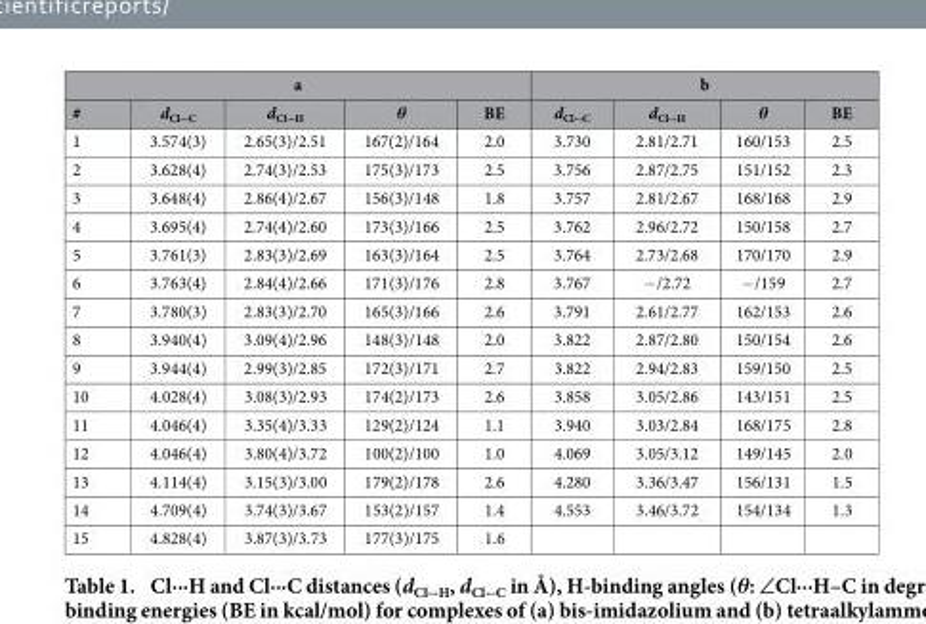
<table><thead><tr><td colspan="5">a</td><td colspan="4">b</td></tr><tr><td>#</td><td>d<sub>Cl···C</sub></td><td>d<sub>Cl···H</sub></td><td>θ</td><td>BE</td><td>d<sub>Cl···C</sub></td><td>d<sub>Cl···H</sub></td><td>θ</td><td>BE</td></tr></thead><tbody><tr><td>1</td><td>3.574(3)</td><td>2.65(3)/2.51</td><td>167(2)/164</td><td>2.0</td><td>3.730</td><td>2.81/2.71</td><td>160/153</td><td>2.5</td></tr><tr><td>2</td><td>3.628(4)</td><td>2.74(3)/2.53</td><td>175(3)/173</td><td>2.5</td><td>3.756</td><td>2.87/2.75</td><td>151/152</td><td>2.3</td></tr><tr><td>3</td><td>3.648(4)</td><td>2.86(4)/2.67</td><td>156(3)/148</td><td>1.8</td><td>3.757</td><td>2.81/2.67</td><td>168/168</td><td>2.9</td></tr><tr><td>4</td><td>3.695(4)</td><td>2.74(4)/2.60</td><td>173(3)/166</td><td>2.5</td><td>3.762</td><td>2.96/2.72</td><td>150/158</td><td>2.7</td></tr><tr><td>5</td><td>3.761(3)</td><td>2.83(3)/2.69</td><td>163(3)/164</td><td>2.5</td><td>3.764</td><td>2.73/2.68</td><td>170/170</td><td>2.9</td></tr><tr><td>6</td><td>3.763(4)</td><td>2.84(4)/2.66</td><td>171(3)/176</td><td>2.8</td><td>3.767</td><td>− /2.72</td><td>− /159</td><td>2.7</td></tr><tr><td>7</td><td>3.780(3)</td><td>2.83(3)/2.70</td><td>165(3)/166</td><td>2.6</td><td>3.791</td><td>2.61/2.77</td><td>162/153</td><td>2.6</td></tr><tr><td>8</td><td>3.940(4)</td><td>3.09(4)/2.96</td><td>148(3)/148</td><td>2.0</td><td>3.822</td><td>2.87/2.80</td><td>150/154</td><td>2.6</td></tr><tr><td>9</td><td>3.944(4)</td><td>2.99(3)/2.85</td><td>172(3)/171</td><td>2.7</td><td>3.822</td><td>2.94/2.83</td><td>159/150</td><td>2.5</td></tr><tr><td>10</td><td>4.028(4)</td><td>3.08(3)/2.93</td><td>174(2)/173</td><td>2.6</td><td>3.858</td><td>3.05/2.86</td><td>143/151</td><td>2.5</td></tr><tr><td>11</td><td>4.046(4)</td><td>3.35(4)/3.33</td><td>129(2)/124</td><td>1.1</td><td>3.940</td><td>3.03/2.84</td><td>168/175</td><td>2.8</td></tr><tr><td>12</td><td>4.046(4)</td><td>3.80(4)/3.72</td><td>100(2)/100</td><td>1.0</td><td>4.069</td><td>3.05/3.12</td><td>149/145</td><td>2.0</td></tr><tr><td>13</td><td>4.114(4)</td><td>3.15(3)/3.00</td><td>179(2)/178</td><td>2.6</td><td>4.280</td><td>3.36/3.47</td><td>156/131</td><td>1.5</td></tr><tr><td>14</td><td>4.709(4)</td><td>3.74(3)/3.67</td><td>153(2)/157</td><td>1.4</td><td>4.553</td><td>3.46/3.72</td><td>154/134</td><td>1.3</td></tr><tr><td>15</td><td>4.828(4)</td><td>3.87(3)/3.73</td><td>177(3)/175</td><td>1.6</td><td></td><td></td><td></td><td></td></tr></tbody></table>